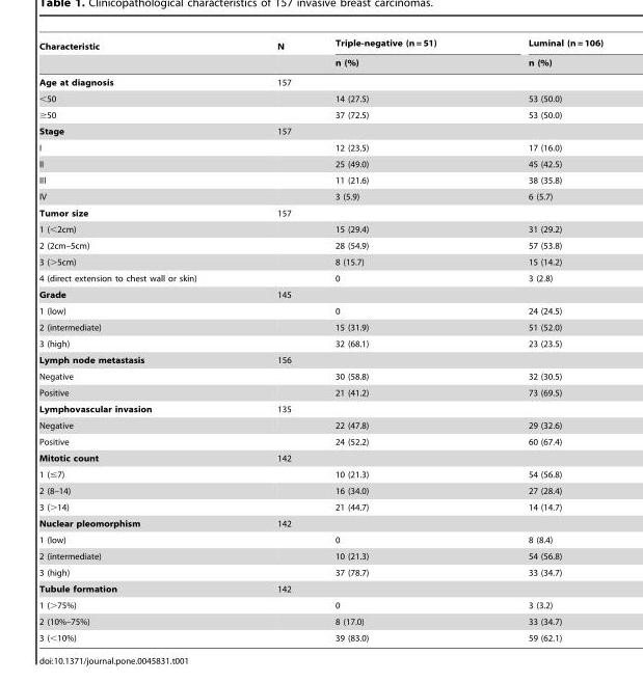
<table><thead><tr><td rowspan="2">Characteristic</td><td rowspan="2">N</td><td rowspan="2">Triple-negative (n = 51) n (%)</td><td rowspan="2">Luminal (n = 106) n (%)</td></tr><tr></tr></thead><tbody><tr><td>Age at diagnosis</td><td>157</td><td></td><td></td></tr><tr><td>&lt;50</td><td></td><td>14 (27.5)</td><td>53 (50.0)</td></tr><tr><td>≥50</td><td></td><td>37 (72.5)</td><td>53 (50.0)</td></tr><tr><td>Stage</td><td>157</td><td></td><td></td></tr><tr><td>I</td><td></td><td>12 (23.5)</td><td>17 (16.0)</td></tr><tr><td>II</td><td></td><td>25 (49.0)</td><td>45 (42.5)</td></tr><tr><td>III</td><td></td><td>11 (21.6)</td><td>38 (35.8)</td></tr><tr><td>IV</td><td></td><td>3 (5.9)</td><td>6 (5.7)</td></tr><tr><td>Tumor size</td><td>157</td><td></td><td></td></tr><tr><td>1 (&lt;2cm)</td><td></td><td>15 (29.4)</td><td>31 (29.2)</td></tr><tr><td>2 (2cm–5cm)</td><td></td><td>28 (54.9)</td><td>57 (53.8)</td></tr><tr><td>3 (&gt;5cm)</td><td></td><td>8 (15.7)</td><td>15 (14.2)</td></tr><tr><td>4 (direct extension to chest wall or skin)</td><td></td><td>0</td><td>3 (2.8)</td></tr><tr><td>Grade</td><td>145</td><td></td><td></td></tr><tr><td>1 (low)</td><td></td><td>0</td><td>24 (24.5)</td></tr><tr><td>2 (intermediate)</td><td></td><td>15 (31.9)</td><td>51 (52.0)</td></tr><tr><td>3 (high)</td><td></td><td>32 (68.1)</td><td>23 (23.5)</td></tr><tr><td>Lymph node metastasis</td><td>156</td><td></td><td></td></tr><tr><td>Negative</td><td></td><td>30 (58.8)</td><td>32 (30.5)</td></tr><tr><td>Positive</td><td></td><td>21 (41.2)</td><td>73 (69.5)</td></tr><tr><td>Lymphovascular invasion</td><td>135</td><td></td><td></td></tr><tr><td>Negative</td><td></td><td>22 (47.8)</td><td>29 (32.6)</td></tr><tr><td>Positive</td><td></td><td>24 (52.2)</td><td>60 (67.4)</td></tr><tr><td>Mitotic count</td><td>142</td><td></td><td></td></tr><tr><td>1 (≤7)</td><td></td><td>10 (21.3)</td><td>54 (56.8)</td></tr><tr><td>2 (8–14)</td><td></td><td>16 (34.0)</td><td>27 (28.4)</td></tr><tr><td>3 (&gt;14)</td><td></td><td>21 (44.7)</td><td>14 (14.7)</td></tr><tr><td>Nuclear pleomorphism</td><td>142</td><td></td><td></td></tr><tr><td>1 (low)</td><td></td><td>0</td><td>8 (8.4)</td></tr><tr><td>2 (intermediate)</td><td></td><td>10 (21.3)</td><td>54 (56.8)</td></tr><tr><td>3 (high)</td><td></td><td>37 (78.7)</td><td>33 (34.7)</td></tr><tr><td>Tubule formation</td><td>142</td><td></td><td></td></tr><tr><td>1 (&gt;75%)</td><td></td><td>0</td><td>3 (3.2)</td></tr><tr><td>2 (10%–75%)</td><td></td><td>8 (17.0)</td><td>33 (34.7)</td></tr><tr><td>3 (&lt;10%)</td><td></td><td>39 (83.0)</td><td>59 (62.1)</td></tr></tbody></table>